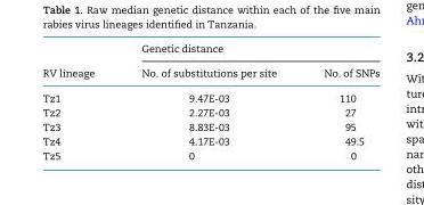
<table><thead><tr><td rowspan="2">RV lineage</td><td colspan="2">Genetic distance</td></tr><tr><td>No. of substitutions per site</td><td>No. of SNPs</td></tr></thead><tbody><tr><td>Tz1</td><td>9.47E-03</td><td>110</td></tr><tr><td>Tz2</td><td>2.27E-03</td><td>27</td></tr><tr><td>Tz3</td><td>8.83E-03</td><td>95</td></tr><tr><td>Tz4</td><td>4.17E-03</td><td>49.5</td></tr><tr><td>Tz5</td><td>0</td><td>0</td></tr></tbody></table>